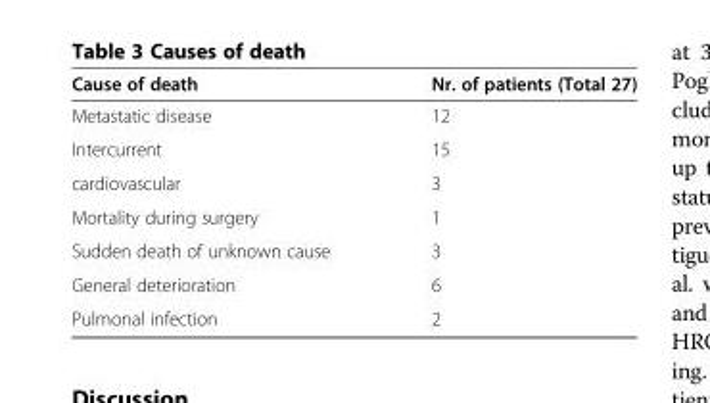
<table><thead><tr><td>Cause of death</td><td>Nr. of patients (Total 27)</td></tr></thead><tbody><tr><td>Metastatic disease</td><td>12</td></tr><tr><td>Intercurrent</td><td>15</td></tr><tr><td>cardiovascular</td><td>3</td></tr><tr><td>Mortality during surgery</td><td>1</td></tr><tr><td>Sudden death of unknown cause</td><td>3</td></tr><tr><td>General deterioration</td><td>6</td></tr><tr><td>Pulmonal infection</td><td>2</td></tr></tbody></table>